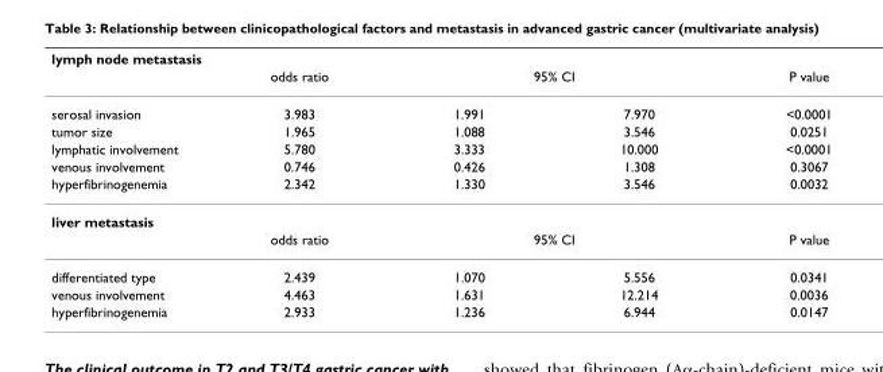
<table><thead><tr><td colspan="5">lymph node metastasis</td></tr><tr><td rowspan="2">serosal invasion</td><td rowspan="2">odds ratio 3.983</td><td colspan="2">95% CI</td><td rowspan="2">P value &lt;0.0001</td></tr><tr><td>1.991</td><td>7.970</td></tr></thead><tbody><tr><td>tumor size</td><td>1.965</td><td>1.088</td><td>3.546</td><td>0.0251</td></tr><tr><td>lymphatic involvement</td><td>5.780</td><td>3.333</td><td>10.000</td><td>&lt;0.0001</td></tr><tr><td>venous involvement</td><td>0.746</td><td>0.426</td><td>1.308</td><td>0.3067</td></tr><tr><td>hyperfibrinogenemia</td><td>2.342</td><td>1.330</td><td>3.546</td><td>0.0032</td></tr><tr><td colspan="5">liver metastasis</td></tr><tr><td></td><td>odds ratio</td><td colspan="2">95% CI</td><td>P value</td></tr><tr><td>differentiated type</td><td>2.439</td><td>1.070</td><td>5.556</td><td>0.0341</td></tr><tr><td>venous involvement</td><td>4.463</td><td>1.631</td><td>12.214</td><td>0.0036</td></tr><tr><td>hyperfibrinogenemia</td><td>2.933</td><td>1.236</td><td>6.944</td><td>0.0147</td></tr></tbody></table>